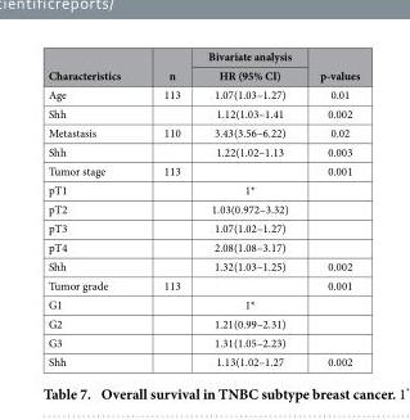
<table><thead><tr><td rowspan="2">Characteristics</td><td rowspan="2">n</td><td rowspan="2">Bivariate analysis HR (95% CI)</td><td rowspan="2">p-values</td></tr><tr></tr></thead><tbody><tr><td>Age</td><td>113</td><td>1.07(1.03–1.27)</td><td>0.01</td></tr><tr><td>Shh</td><td></td><td>1.12(1.03–1.41</td><td>0.002</td></tr><tr><td>Metastasis</td><td>110</td><td>3.43(3.56–6.22)</td><td>0.02</td></tr><tr><td>Shh</td><td></td><td>1.22(1.02–1.13</td><td>0.003</td></tr><tr><td>Tumor stage</td><td>113</td><td></td><td>0.001</td></tr><tr><td>pT1</td><td></td><td>1*</td><td></td></tr><tr><td>pT2</td><td></td><td>1.03(0.972–3.32)</td><td></td></tr><tr><td>pT3</td><td></td><td>1.07(1.02–1.27)</td><td></td></tr><tr><td>pT4</td><td></td><td>2.08(1.08–3.17)</td><td></td></tr><tr><td>Shh</td><td></td><td>1.32(1.03–1.25)</td><td>0.002</td></tr><tr><td>Tumor grade</td><td>113</td><td></td><td>0.001</td></tr><tr><td>G1</td><td></td><td>1*</td><td></td></tr><tr><td>G2</td><td></td><td>1.21(0.99–2.31)</td><td></td></tr><tr><td>G3</td><td></td><td>1.31(1.05–2.23)</td><td></td></tr><tr><td>Shh</td><td></td><td>1.13(1.02–1.27</td><td>0.002</td></tr></tbody></table>